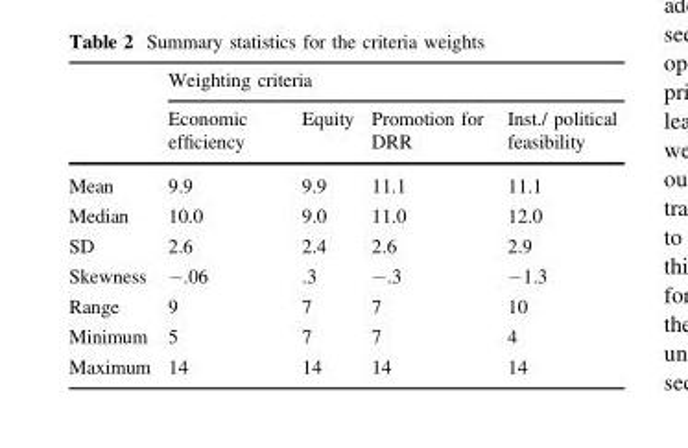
<table><thead><tr><td rowspan="2"></td><td colspan="4">Weighting criteria</td></tr><tr><td>Economic efficiency</td><td>Equity</td><td>Promotion for DRR</td><td>Inst./ political feasibility</td></tr></thead><tbody><tr><td>Mean</td><td>9.9</td><td>9.9</td><td>11.1</td><td>11.1</td></tr><tr><td>Median</td><td>10.0</td><td>9.0</td><td>11.0</td><td>12.0</td></tr><tr><td>SD</td><td>2.6</td><td>2.4</td><td>2.6</td><td>2.9</td></tr><tr><td>Skewness</td><td>−.06</td><td>.3</td><td>−.3</td><td>−1.3</td></tr><tr><td>Range</td><td>9</td><td>7</td><td>7</td><td>10</td></tr><tr><td>Minimum</td><td>5</td><td>7</td><td>7</td><td>4</td></tr><tr><td>Maximum</td><td>14</td><td>14</td><td>14</td><td>14</td></tr></tbody></table>